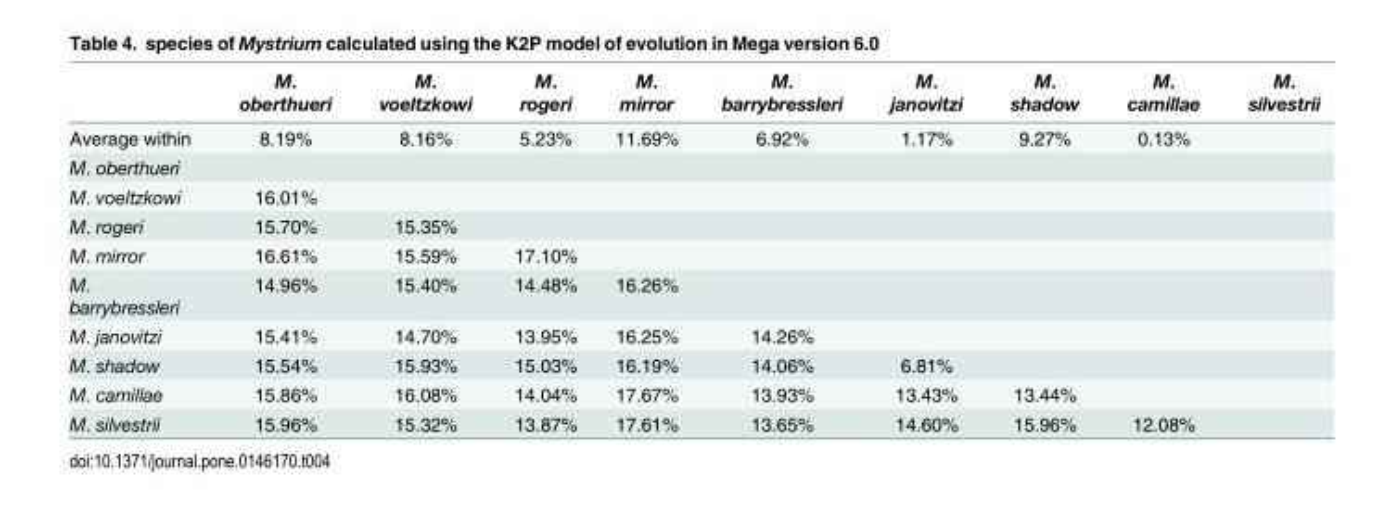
<table><thead><tr><td></td><td>M. oberthueri</td><td>M. voeltzkowi</td><td>M. rogeri</td><td>M. mirror</td><td>M. barrybressleri</td><td>M. janovitzi</td><td>M. shadow</td><td>M. camillae</td><td>M. silvestrii</td></tr></thead><tbody><tr><td>Average within</td><td>8.19%</td><td>8.16%</td><td>5.23%</td><td>11.69%</td><td>6.92%</td><td>1.17%</td><td>9.27%</td><td>0.13%</td><td></td></tr><tr><td colspan="10">M. oberthueri</td></tr><tr><td>M. voeltzkowi</td><td>16.01%</td><td></td><td></td><td></td><td></td><td></td><td></td><td></td><td></td></tr><tr><td>M. rogeri</td><td>15.70%</td><td>15.35%</td><td></td><td></td><td></td><td></td><td></td><td></td><td></td></tr><tr><td>M. mirror</td><td>16.61%</td><td>15.59%</td><td>17.10%</td><td></td><td></td><td></td><td></td><td></td><td></td></tr><tr><td>M. barrybressleri</td><td>14.96%</td><td>15.40%</td><td>14.48%</td><td>16.26%</td><td></td><td></td><td></td><td></td><td></td></tr><tr><td>M. janovitzi</td><td>15.41%</td><td>14.70%</td><td>13.95%</td><td>16.25%</td><td>14.26%</td><td></td><td></td><td></td><td></td></tr><tr><td>M. shadow</td><td>15.54%</td><td>15.93%</td><td>15.03%</td><td>16.19%</td><td>14.06%</td><td>6.81%</td><td></td><td></td><td></td></tr><tr><td>M. camillae</td><td>15.86%</td><td>16.08%</td><td>14.04%</td><td>17.67%</td><td>13.93%</td><td>13.43%</td><td>13.44%</td><td></td><td></td></tr><tr><td>M. silvestrii</td><td>15.96%</td><td>15.32%</td><td>13.87%</td><td>17.61%</td><td>13.65%</td><td>14.60%</td><td>15.96%</td><td>12.08%</td><td></td></tr></tbody></table>